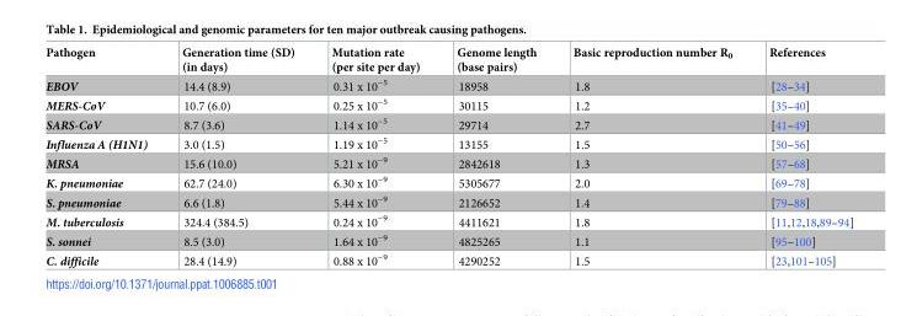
<table><thead><tr><td>Pathogen</td><td>Generation time (SD) (in days)</td><td>Mutation rate (per site per day)</td><td>Genome length (base pairs)</td><td>Basic reproduction number R<sub>0</sub></td><td>References</td></tr></thead><tbody><tr><td>EBOV</td><td>14.4 (8.9)</td><td>0.31 x 10<sup>−5</sup></td><td>18958</td><td>1.8</td><td>[28–34]</td></tr><tr><td>MERS-CoV</td><td>10.7 (6.0)</td><td>0.25 x 10<sup>−5</sup></td><td>30115</td><td>1.2</td><td>[35–40]</td></tr><tr><td>SARS-CoV</td><td>8.7 (3.6)</td><td>1.14 x 10<sup>−5</sup></td><td>29714</td><td>2.7</td><td>[41–49]</td></tr><tr><td>Influenza A (H1N1)</td><td>3.0 (1.5)</td><td>1.19 x 10<sup>−5</sup></td><td>13155</td><td>1.5</td><td>[50–56]</td></tr><tr><td>MRSA</td><td>15.6 (10.0)</td><td>5.21 x 10<sup>−9</sup></td><td>2842618</td><td>1.3</td><td>[57–68]</td></tr><tr><td>K. pneumoniae</td><td>62.7 (24.0)</td><td>6.30 x 10<sup>−9</sup></td><td>5305677</td><td>2.0</td><td>[69–78]</td></tr><tr><td>S. pneumoniae</td><td>6.6 (1.8)</td><td>5.44 x 10<sup>−9</sup></td><td>2126652</td><td>1.4</td><td>[79–88]</td></tr><tr><td>M. tuberculosis</td><td>324.4 (384.5)</td><td>0.24 x 10<sup>−9</sup></td><td>4411621</td><td>1.8</td><td>[11,12,18,89–94]</td></tr><tr><td>S. sonnei</td><td>8.5 (3.0)</td><td>1.64 x 10<sup>−9</sup></td><td>4825265</td><td>1.1</td><td>[95–100]</td></tr><tr><td>C. difficile</td><td>28.4 (14.9)</td><td>0.88 x 10<sup>−9</sup></td><td>4290252</td><td>1.5</td><td>[23,101–105]</td></tr></tbody></table>